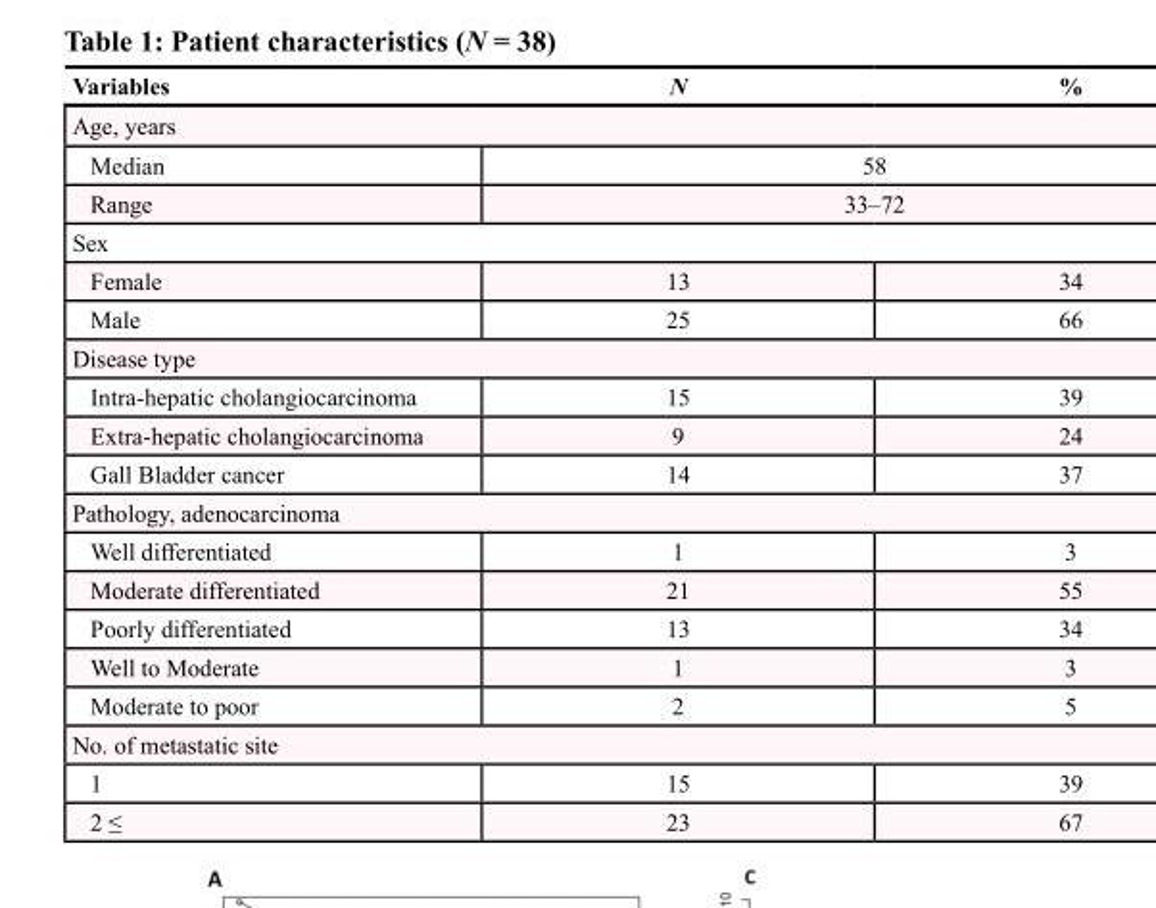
<table><thead><tr><td>Variables</td><td>N</td><td>%</td></tr></thead><tbody><tr><td colspan="3">Age, years</td></tr><tr><td>Median</td><td colspan="2">58</td></tr><tr><td>Range</td><td colspan="2">33–72</td></tr><tr><td colspan="3">Sex</td></tr><tr><td>Female</td><td>13</td><td>34</td></tr><tr><td>Male</td><td>25</td><td>66</td></tr><tr><td colspan="3">Disease type</td></tr><tr><td>Intra-hepatic cholangiocarcinoma</td><td>15</td><td>39</td></tr><tr><td>Extra-hepatic cholangiocarcinoma</td><td>9</td><td>24</td></tr><tr><td>Gall Bladder cancer</td><td>14</td><td>37</td></tr><tr><td colspan="3">Pathology, adenocarcinoma</td></tr><tr><td>Well differentiated</td><td>1</td><td>3</td></tr><tr><td>Moderate differentiated</td><td>21</td><td>55</td></tr><tr><td>Poorly differentiated</td><td>13</td><td>34</td></tr><tr><td>Well to Moderate</td><td>1</td><td>3</td></tr><tr><td>Moderate to poor</td><td>2</td><td>5</td></tr><tr><td colspan="3">No. of metastatic site</td></tr><tr><td>1</td><td>15</td><td>39</td></tr><tr><td>2 ≤</td><td>23</td><td>67</td></tr></tbody></table>